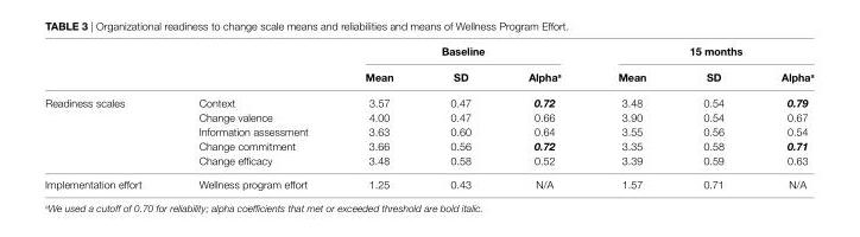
<table><thead><tr><td rowspan="2"></td><td rowspan="2"></td><td colspan="3">baseline</td><td colspan="3">15 months</td></tr><tr><td>Mean</td><td>sD</td><td>alpha<sup>a</sup></td><td>Mean</td><td>sD</td><td>alpha<sup>a</sup></td></tr></thead><tbody><tr><td rowspan="5">Readiness scales</td><td>Context</td><td>3.57</td><td>0.47</td><td>0.72</td><td>3.48</td><td>0.54</td><td>0.79</td></tr><tr><td>Change valence</td><td>4.00</td><td>0.47</td><td>0.66</td><td>3.90</td><td>0.54</td><td>0.67</td></tr><tr><td>Information assessment</td><td>3.63</td><td>0.60</td><td>0.64</td><td>3.55</td><td>0.56</td><td>0.54</td></tr><tr><td>Change commitment</td><td>3.66</td><td>0.56</td><td>0.72</td><td>3.35</td><td>0.58</td><td>0.71</td></tr><tr><td>Change efficacy</td><td>3.48</td><td>0.58</td><td>0.52</td><td>3.39</td><td>0.59</td><td>0.63</td></tr><tr><td>Implementation effort</td><td>Wellness program effort</td><td>1.25</td><td>0.43</td><td>N/A</td><td>1.57</td><td>0.71</td><td>N/A</td></tr></tbody></table>